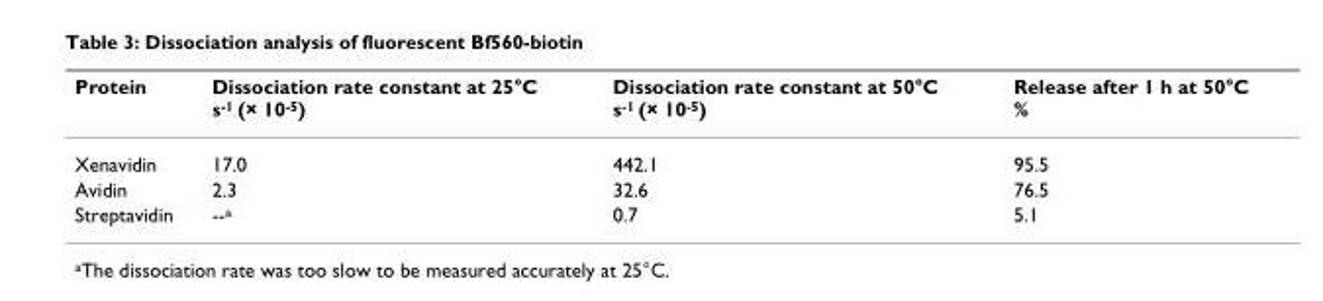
<table><thead><tr><td>Protein</td><td>Dissociation rate constant at 25°C s-1 (× 10-5)</td><td>Dissociation rate constant at 50°C s-1 (× 10-5)</td><td>Release after 1 h at 50°C %</td></tr></thead><tbody><tr><td>Xenavidin</td><td>17.0</td><td>442.1</td><td>95.5</td></tr><tr><td>Avidin</td><td>2.3</td><td>32.6</td><td>76.5</td></tr><tr><td>Streptavidin</td><td>--<sup>a</sup></td><td>0.7</td><td>5.1</td></tr></tbody></table>